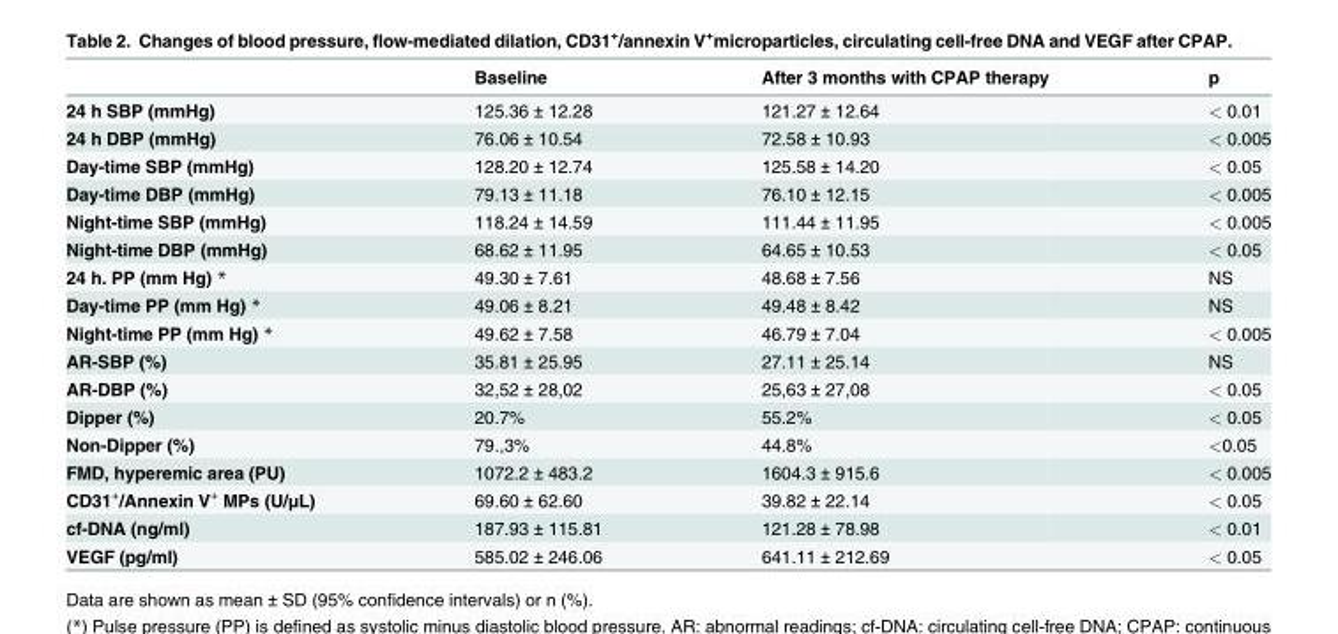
<table><thead><tr><td></td><td>Baseline</td><td>After 3 months with CPAP therapy</td><td>p</td></tr></thead><tbody><tr><td>24 h SBP (mmHg)</td><td>125.36 ± 12.28</td><td>121.27 ± 12.64</td><td>&lt; 0.01</td></tr><tr><td>24 h DBP (mmHg)</td><td>76.06 ± 10.54</td><td>72.58 ± 10.93</td><td>&lt; 0.005</td></tr><tr><td>Day-time SBP (mmHg)</td><td>128.20 ± 12.74</td><td>125.58 ± 14.20</td><td>&lt; 0.05</td></tr><tr><td>Day-time DBP (mmHg)</td><td>79.13 ± 11.18</td><td>76.10 ± 12.15</td><td>&lt; 0.005</td></tr><tr><td>Night-time SBP (mmHg)</td><td>118.24 ± 14.59</td><td>111.44 ± 11.95</td><td>&lt; 0.005</td></tr><tr><td>Night-time DBP (mmHg)</td><td>68.62 ± 11.95</td><td>64.65 ± 10.53</td><td>&lt; 0.05</td></tr><tr><td>24 h. PP (mm Hg) *</td><td>49.30 ± 7.61</td><td>48.68 ± 7.56</td><td>NS</td></tr><tr><td>Day-time PP (mm Hg) *</td><td>49.06 ± 8.21</td><td>49.48 ± 8.42</td><td>NS</td></tr><tr><td>Night-time PP (mm Hg) *</td><td>49.62 ± 7.58</td><td>46.79 ± 7.04</td><td>&lt; 0.005</td></tr><tr><td>AR-SBP (%)</td><td>35.81 ± 25.95</td><td>27.11 ± 25.14</td><td>NS</td></tr><tr><td>AR-DBP (%)</td><td>32,52 ± 28,02</td><td>25,63 ± 27,08</td><td>&lt; 0.05</td></tr><tr><td>Dipper (%)</td><td>20.7%</td><td>55.2%</td><td>&lt; 0.05</td></tr><tr><td>Non-Dipper (%)</td><td>79.,3%</td><td>44.8%</td><td>&lt;0.05</td></tr><tr><td>FMD, hyperemic area (PU)</td><td>1072.2 ± 483.2</td><td>1604.3 ± 915.6</td><td>&lt; 0.005</td></tr><tr><td>CD31<sup>+</sup>/Annexin V<sup>+</sup> MPs (U/μL)</td><td>69.60 ± 62.60</td><td>39.82 ± 22.14</td><td>&lt; 0.05</td></tr><tr><td>cf-DNA (ng/ml)</td><td>187.93 ± 115.81</td><td>121.28 ± 78.98</td><td>&lt; 0.01</td></tr><tr><td>VEGF (pg/ml)</td><td>585.02 ± 246.06</td><td>641.11 ± 212.69</td><td>&lt; 0.05</td></tr></tbody></table>